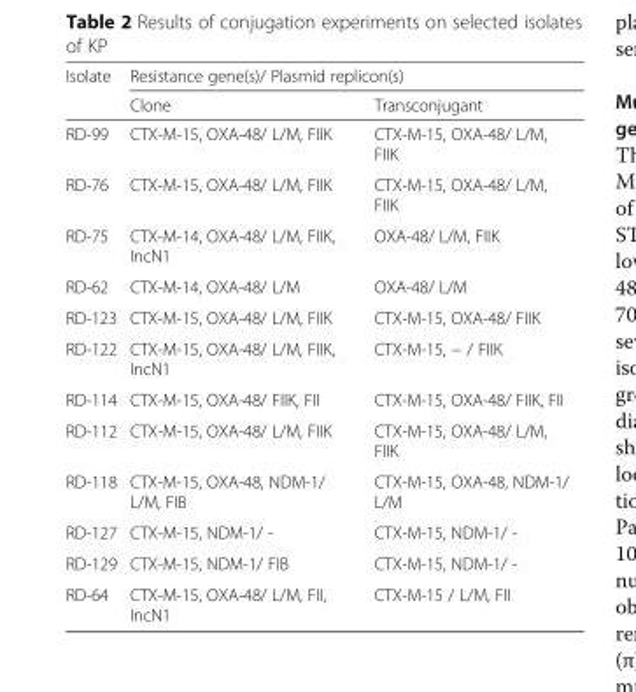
<table><thead><tr><td rowspan="2">Isolate</td><td colspan="2">Resistance gene(s)/ Plasmid replicon(s)</td></tr><tr><td>Clone</td><td>Transconjugant</td></tr></thead><tbody><tr><td>RD-99</td><td>CTX-M-15, OXA-48/ L/M, FIIK</td><td>CTX-M-15, OXA-48/ L/M, FIIK</td></tr><tr><td>RD-76</td><td>CTX-M-15, OXA-48/ L/M, FIIK</td><td>CTX-M-15, OXA-48/ L/M, FIIK</td></tr><tr><td>RD-75</td><td>CTX-M-14, OXA-48/ L/M, FIIK, IncN1</td><td>OXA-48/ L/M, FIIK</td></tr><tr><td>RD-62</td><td>CTX-M-14, OXA-48/ L/M</td><td>OXA-48/ L/M</td></tr><tr><td>RD-123</td><td>CTX-M-15, OXA-48/ L/M, FIIK</td><td>CTX-M-15, OXA-48/ FIIK</td></tr><tr><td>RD-122</td><td>CTX-M-15, OXA-48/ L/M, FIIK, IncN1</td><td>CTX-M-15, − / FIIK</td></tr><tr><td>RD-114</td><td>CTX-M-15, OXA-48/ FIIK, FII</td><td>CTX-M-15, OXA-48/ FIIK, FII</td></tr><tr><td>RD-112</td><td>CTX-M-15, OXA-48/ L/M, FIIK</td><td>CTX-M-15, OXA-48/ L/M, FIIK</td></tr><tr><td>RD-118</td><td>CTX-M-15, OXA-48, NDM-1/ L/M, FIB</td><td>CTX-M-15, OXA-48, NDM-1/ L/M</td></tr><tr><td>RD-127</td><td>CTX-M-15, NDM-1/ -</td><td>CTX-M-15, NDM-1/ -</td></tr><tr><td>RD-129</td><td>CTX-M-15, NDM-1/ FIB</td><td>CTX-M-15, NDM-1/ -</td></tr><tr><td>RD-64</td><td>CTX-M-15, OXA-48/ L/M, FII, IncN1</td><td>CTX-M-15 / L/M, FII</td></tr></tbody></table>